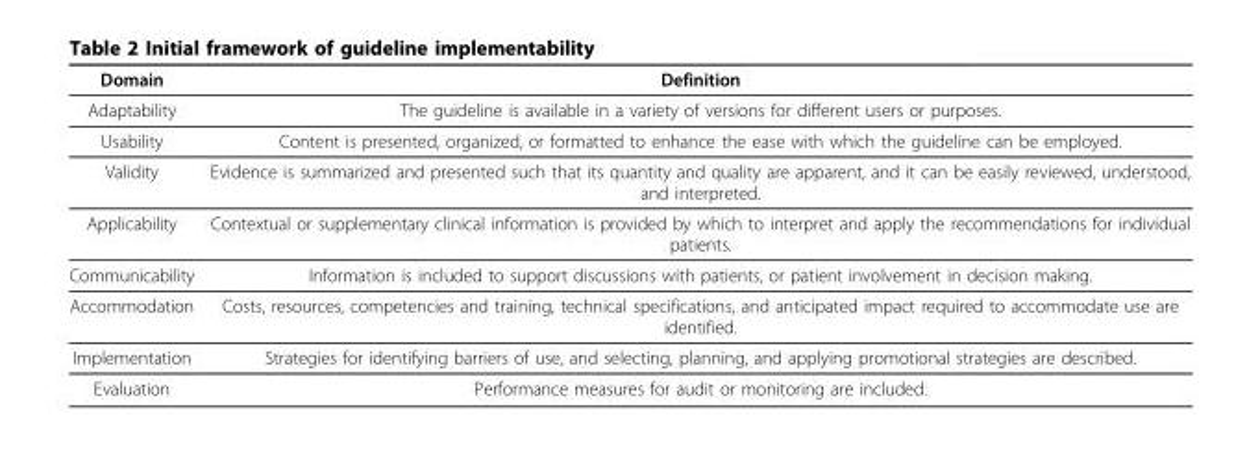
<table><thead><tr><td>Domain</td><td>Definition</td></tr></thead><tbody><tr><td>Adaptability</td><td>The guideline is available in a variety of versions for different users or purposes.</td></tr><tr><td>Usability</td><td>Content is presented, organized, or formatted to enhance the ease with which the guideline can be employed.</td></tr><tr><td>Validity</td><td>Evidence is summarized and presented such that its quantity and quality are apparent, and it can be easily reviewed, understood, and interpreted.</td></tr><tr><td>Applicability</td><td>Contextual or supplementary clinical information is provided by which to interpret and apply the recommendations for individual patients.</td></tr><tr><td>Communicability</td><td>Information is included to support discussions with patients, or patient involvement in decision making.</td></tr><tr><td>Accommodation</td><td>Costs, resources, competencies and training, technical specifications, and anticipated impact required to accommodate use are identified.</td></tr><tr><td>Implementation</td><td>Strategies for identifying barriers of use, and selecting, planning, and applying promotional strategies are described.</td></tr><tr><td>Evaluation</td><td>Performance measures for audit or monitoring are included.</td></tr></tbody></table>